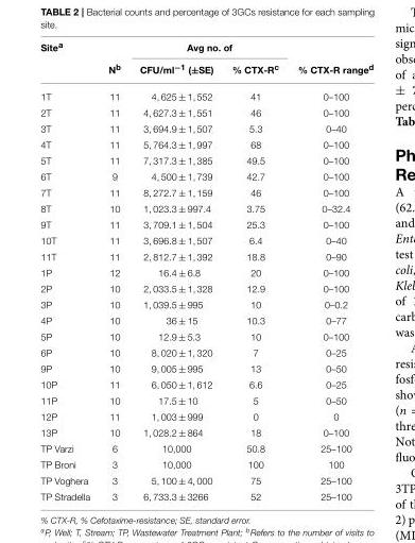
<table><thead><tr><td rowspan="2">Site<sup>a</sup></td><td rowspan="2">N<sup>b</sup></td><td colspan="2">Avg no. of</td><td rowspan="2">% CTX-R range<sup>d</sup></td></tr><tr><td>CFU/ml<sup>−1</sup> (±SE)</td><td>% CTX-R<sup>c</sup></td></tr></thead><tbody><tr><td>1T</td><td>11</td><td>4, 625 ± 1, 552</td><td>41</td><td>0–100</td></tr><tr><td>2T</td><td>11</td><td>4, 627.3 ± 1, 551</td><td>46</td><td>0–100</td></tr><tr><td>3T</td><td>11</td><td>3, 694.9 ± 1, 507</td><td>5.3</td><td>0–40</td></tr><tr><td>4T</td><td>11</td><td>5, 764.3 ± 1, 997</td><td>68</td><td>0–100</td></tr><tr><td>5T</td><td>11</td><td>7, 317.3 ± 1, 385</td><td>49.5</td><td>0–100</td></tr><tr><td>6T</td><td>9</td><td>4, 500 ± 1, 739</td><td>42.7</td><td>0–100</td></tr><tr><td>7T</td><td>11</td><td>8, 272.7 ± 1, 159</td><td>46</td><td>0–100</td></tr><tr><td>8T</td><td>10</td><td>1, 023.3 ± 997.4</td><td>3.75</td><td>0–32.4</td></tr><tr><td>9T</td><td>11</td><td>3, 709.1 ± 1, 504</td><td>25.3</td><td>0–100</td></tr><tr><td>10T</td><td>11</td><td>3, 696.8 ± 1, 507</td><td>6.4</td><td>0–40</td></tr><tr><td>11T</td><td>11</td><td>2, 812.7 ± 1, 392</td><td>18.8</td><td>0–90</td></tr><tr><td>1P</td><td>12</td><td>16.4 ± 6.8</td><td>20</td><td>0–100</td></tr><tr><td>2P</td><td>10</td><td>2, 033.5 ± 1, 328</td><td>12.9</td><td>0–100</td></tr><tr><td>3P</td><td>10</td><td>1, 039.5 ± 995</td><td>10</td><td>0–0.2</td></tr><tr><td>4P</td><td>10</td><td>36 ± 15</td><td>10.3</td><td>0–77</td></tr><tr><td>5P</td><td>10</td><td>12.9 ± 5.3</td><td>10</td><td>0–100</td></tr><tr><td>6P</td><td>10</td><td>8, 020 ± 1, 320</td><td>7</td><td>0–25</td></tr><tr><td>9P</td><td>10</td><td>9, 005 ± 995</td><td>13</td><td>0–50</td></tr><tr><td>10P</td><td>11</td><td>6, 050 ± 1, 612</td><td>6.6</td><td>0–25</td></tr><tr><td>11P</td><td>10</td><td>17.5 ± 10</td><td>5</td><td>0–50</td></tr><tr><td>12P</td><td>11</td><td>1, 003 ± 999</td><td>0</td><td>0</td></tr><tr><td>13P</td><td>10</td><td>1, 028.2 ± 864</td><td>18</td><td>0–100</td></tr><tr><td>TP Varzi</td><td>6</td><td>10,000</td><td>50.8</td><td>25–100</td></tr><tr><td>TP Broni</td><td>3</td><td>10,000</td><td>100</td><td>100</td></tr><tr><td>TP Voghera</td><td>3</td><td>5, 100 ± 4, 000</td><td>75</td><td>25–100</td></tr><tr><td>TP Stradella</td><td>3</td><td>6, 733.3 ± 3266</td><td>52</td><td>25–100</td></tr></tbody></table>